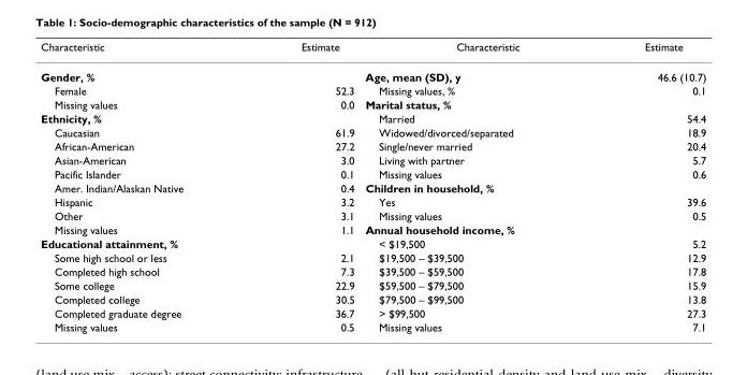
<table><thead><tr><td>Characteristic</td><td>Estimate</td><td>Characteristic</td><td>Estimate</td></tr></thead><tbody><tr><td>Gender, %</td><td></td><td>Age, mean (SD), y</td><td>46.6 (10.7)</td></tr><tr><td>Female</td><td>52.3</td><td>Missing values, %</td><td>0.1</td></tr><tr><td>Missing values</td><td>0.0</td><td>Marital status, %</td><td></td></tr><tr><td>Ethnicity, %</td><td></td><td>Married</td><td>54.4</td></tr><tr><td>Caucasian</td><td>61.9</td><td>Widowed/divorced/separated</td><td>18.9</td></tr><tr><td>African-American</td><td>27.2</td><td>Single/never married</td><td>20.4</td></tr><tr><td>Asian-American</td><td>3.0</td><td>Living with partner</td><td>5.7</td></tr><tr><td>Pacific Islander</td><td>0.1</td><td>Missing values</td><td>0.6</td></tr><tr><td>Amer. Indian/Alaskan Native</td><td>0.4</td><td>Children in household, %</td><td></td></tr><tr><td>Hispanic</td><td>3.2</td><td>Yes</td><td>39.6</td></tr><tr><td>Other</td><td>3.1</td><td>Missing values</td><td>0.5</td></tr><tr><td>Missing values</td><td>1.1</td><td>Annual household income, %</td><td></td></tr><tr><td>Educational attainment, %</td><td></td><td>&lt; $19,500</td><td>5.2</td></tr><tr><td>Some high school or less</td><td>2.1</td><td>$19,500 – $39,500</td><td>12.9</td></tr><tr><td>Completed high school</td><td>7.3</td><td>$39,500 – $59,500</td><td>17.8</td></tr><tr><td>Some college</td><td>22.9</td><td>$59,500 – $79,500</td><td>15.9</td></tr><tr><td>Completed college</td><td>30.5</td><td>$79,500 – $99,500</td><td>13.8</td></tr><tr><td>Completed graduate degree</td><td>36.7</td><td>&gt; $99,500</td><td>27.3</td></tr><tr><td>Missing values</td><td>0.5</td><td>Missing values</td><td>7.1</td></tr></tbody></table>